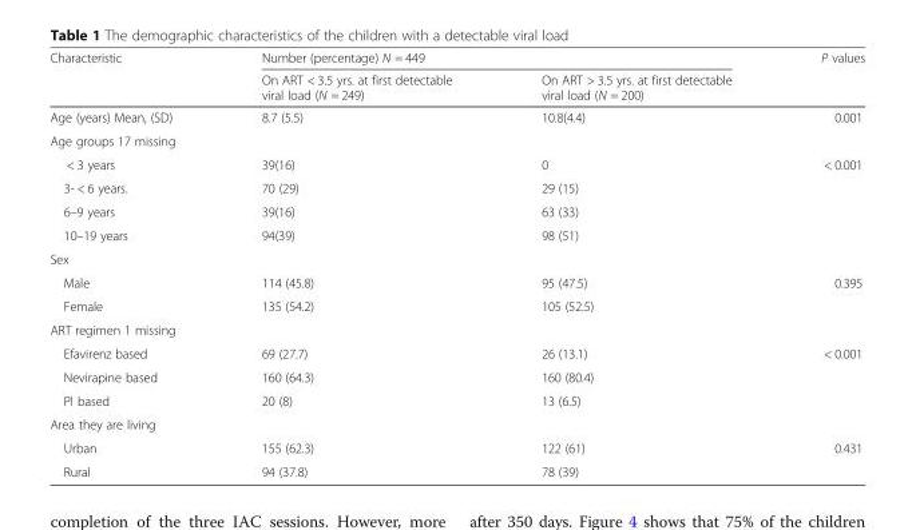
<table><thead><tr><td rowspan="2">Characteristic</td><td colspan="2">Number (percentage) N = 449</td><td rowspan="2">P values</td></tr><tr><td>On ART &lt; 3.5 yrs. at first detectable viral load (N = 249)</td><td>On ART &gt; 3.5 yrs. at first detectable viral load (N = 200)</td></tr></thead><tbody><tr><td>Age (years) Mean, (SD)</td><td>8.7 (5.5)</td><td>10.8(4.4)</td><td>0.001</td></tr><tr><td colspan="4">Age groups 17 missing</td></tr><tr><td>&lt; 3 years</td><td>39(16)</td><td>0</td><td rowspan="4">&lt; 0.001</td></tr><tr><td>3- &lt; 6 years.</td><td>70 (29)</td><td>29 (15)</td></tr><tr><td>6–9 years</td><td>39(16)</td><td>63 (33)</td></tr><tr><td>10–19 years</td><td>94(39)</td><td>98 (51)</td></tr><tr><td colspan="4">Sex</td></tr><tr><td>Male</td><td>114 (45.8)</td><td>95 (47.5)</td><td rowspan="2">0.395</td></tr><tr><td>Female</td><td>135 (54.2)</td><td>105 (52.5)</td></tr><tr><td colspan="4">ART regimen 1 missing</td></tr><tr><td>Efavirenz based</td><td>69 (27.7)</td><td>26 (13.1)</td><td rowspan="3">&lt; 0.001</td></tr><tr><td>Nevirapine based</td><td>160 (64.3)</td><td>160 (80.4)</td></tr><tr><td>PI based</td><td>20 (8)</td><td>13 (6.5)</td></tr><tr><td colspan="4">Area they are living</td></tr><tr><td>Urban</td><td>155 (62.3)</td><td>122 (61)</td><td rowspan="2">0.431</td></tr><tr><td>Rural</td><td>94 (37.8)</td><td>78 (39)</td></tr></tbody></table>